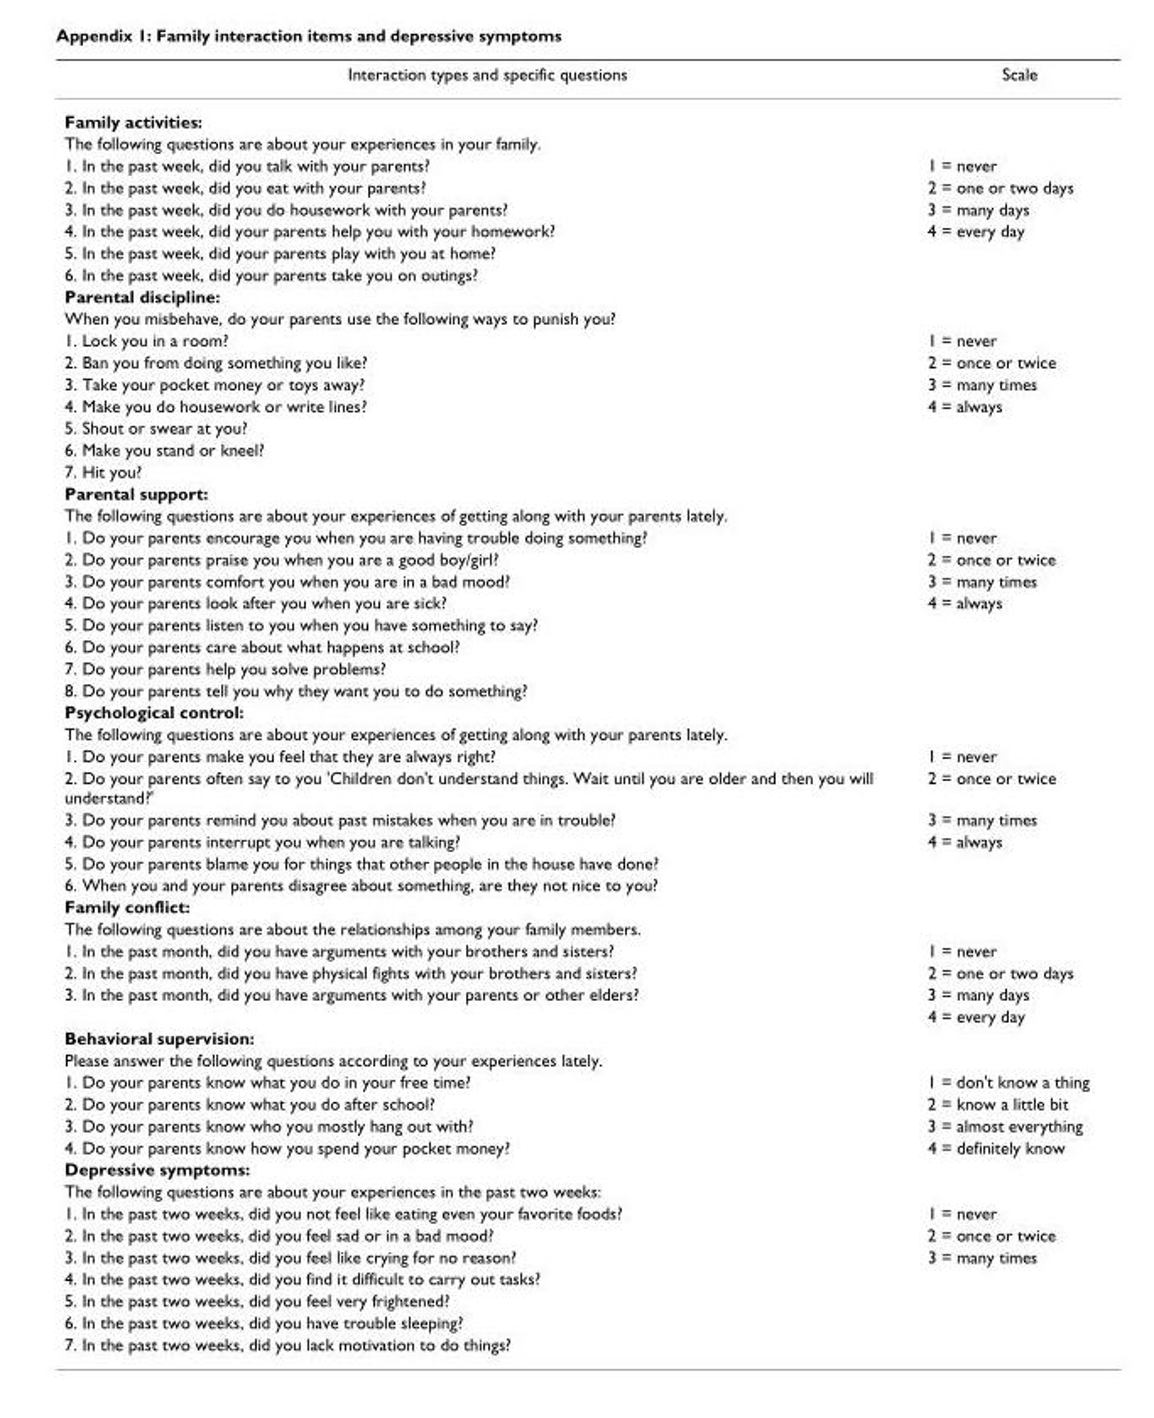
<table><thead><tr><td>Interaction types and specific questions</td><td>Scale</td></tr></thead><tbody><tr><td colspan="2">Family activities:</td></tr><tr><td colspan="2">The following questions are about your experiences in your family.</td></tr><tr><td>1. In the past week, did you talk with your parents?</td><td>1 = never</td></tr><tr><td>2. In the past week, did you eat with your parents?</td><td>2 = one or two days</td></tr><tr><td>3. In the past week, did you do housework with your parents?</td><td>3 = many days</td></tr><tr><td>4. In the past week, did your parents help you with your homework?</td><td>4 = every day</td></tr><tr><td colspan="2">5. In the past week, did your parents play with you at home?</td></tr><tr><td colspan="2">6. In the past week, did your parents take you on outings?</td></tr><tr><td colspan="2">Parental discipline:</td></tr><tr><td colspan="2">When you misbehave, do your parents use the following ways to punish you?</td></tr><tr><td>1. Lock you in a room?</td><td>1 = never</td></tr><tr><td>2. Ban you from doing something you like?</td><td>2 = once or twice</td></tr><tr><td>3. Take your pocket money or toys away?</td><td>3 = many times</td></tr><tr><td>4. Make you do housework or write lines?</td><td>4 = always</td></tr><tr><td colspan="2">5. Shout or swear at you?</td></tr><tr><td colspan="2">6. Make you stand or kneel?</td></tr><tr><td colspan="2">7. Hit you?</td></tr><tr><td colspan="2">Parental support:</td></tr><tr><td colspan="2">The following questions are about your experiences of getting along with your parents lately.</td></tr><tr><td>1. Do your parents encourage you when you are having trouble doing something?</td><td>1 = never</td></tr><tr><td>2. Do your parents praise you when you are a good boy/girl?</td><td>2 = once or twice</td></tr><tr><td>3. Do your parents comfort you when you are in a bad mood?</td><td>3 = many times</td></tr><tr><td>4. Do your parents look after you when you are sick?</td><td>4 = always</td></tr><tr><td colspan="2">5. Do your parents listen to you when you have something to say?</td></tr><tr><td colspan="2">6. Do your parents care about what happens at school?</td></tr><tr><td colspan="2">7. Do your parents help you solve problems?</td></tr><tr><td colspan="2">8. Do your parents tell you why they want you to do something?</td></tr><tr><td colspan="2">Psychological control:</td></tr><tr><td colspan="2">The following questions are about your experiences of getting along with your parents lately.</td></tr><tr><td>1. Do your parents make you feel that they are always right?</td><td>1 = never</td></tr><tr><td>2. Do your parents often say to you &#x27;Children don&#x27;t understand things. Wait until you are older and then you will understand?&#x27;</td><td>2 = once or twice</td></tr><tr><td>3. Do your parents remind you about past mistakes when you are in trouble?</td><td>3 = many times</td></tr><tr><td>4. Do your parents interrupt you when you are talking?</td><td>4 = always</td></tr><tr><td colspan="2">5. Do your parents blame you for things that other people in the house have done?</td></tr><tr><td colspan="2">6. When you and your parents disagree about something, are they not nice to you?</td></tr><tr><td colspan="2">Family conflict:</td></tr><tr><td colspan="2">The following questions are about the relationships among your family members.</td></tr><tr><td>1. In the past month, did you have arguments with your brothers and sisters?</td><td>1 = never</td></tr><tr><td>2. In the past month, did you have physical fights with your brothers and sisters?</td><td>2 = one or two days</td></tr><tr><td rowspan="2">3. In the past month, did you have arguments with your parents or other elders?</td><td>3 = many days</td></tr><tr><td>4 = every day</td></tr><tr><td colspan="2">Behavioral supervision:</td></tr><tr><td colspan="2">Please answer the following questions according to your experiences lately.</td></tr><tr><td>1. Do your parents know what you do in your free time?</td><td>1 = don&#x27;t know a thing</td></tr><tr><td>2. Do your parents know what you do after school?</td><td>2 = know a little bit</td></tr><tr><td>3. Do your parents know who you mostly hang out with?</td><td>3 = almost everything</td></tr><tr><td>4. Do your parents know how you spend your pocket money?</td><td>4 = definitely know</td></tr><tr><td colspan="2">Depressive symptoms:</td></tr><tr><td colspan="2">The following questions are about your experiences in the past two weeks:</td></tr><tr><td>1. In the past two weeks, did you not feel like eating even your favorite foods?</td><td>1 = never</td></tr><tr><td>2. In the past two weeks, did you feel sad or in a bad mood?</td><td>2 = once or twice</td></tr><tr><td>3. In the past two weeks, did you feel like crying for no reason?</td><td>3 = many times</td></tr><tr><td colspan="2">4. In the past two weeks, did you find it difficult to carry out tasks?</td></tr><tr><td colspan="2">5. In the past two weeks, did you feel very frightened?</td></tr><tr><td colspan="2">6. In the past two weeks, did you have trouble sleeping?</td></tr><tr><td>7. In the past two weeks, did you lack motivation to do things?</td><td></td></tr></tbody></table>